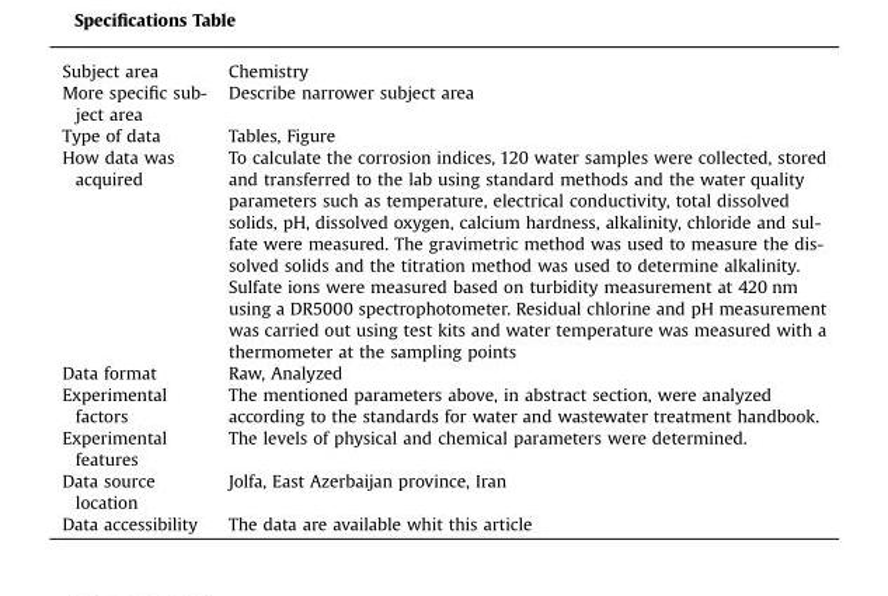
<table><tbody><tr><td>Subject area</td><td>Chemistry</td></tr><tr><td>More specific sub- ject area</td><td>Describe narrower subject area</td></tr><tr><td>Type of data</td><td>Tables, Figure</td></tr><tr><td>How data was acquired</td><td>To calculate the corrosion indices, 120 water samples were collected, stored and transferred to the lab using standard methods and the water quality parameters such as temperature, electrical conductivity, total dissolved solids, pH, dissolved oxygen, calcium hardness, alkalinity, chloride and sul- fate were measured. The gravimetric method was used to measure the dis- solved solids and the titration method was used to determine alkalinity. Sulfate ions were measured based on turbidity measurement at 420 nm using a DR5000 spectrophotometer. Residual chlorine and pH measurement was carried out using test kits and water temperature was measured with a thermometer at the sampling points</td></tr><tr><td>Data format</td><td>Raw, Analyzed</td></tr><tr><td>Experimental factors</td><td>The mentioned parameters above, in abstract section, were analyzed according to the standards for water and wastewater treatment handbook.</td></tr><tr><td>Experimental features</td><td>The levels of physical and chemical parameters were determined.</td></tr><tr><td>Data source location</td><td>Jolfa, East Azerbaijan province, Iran</td></tr><tr><td>Data accessibility</td><td>The data are available whit this article</td></tr></tbody></table>